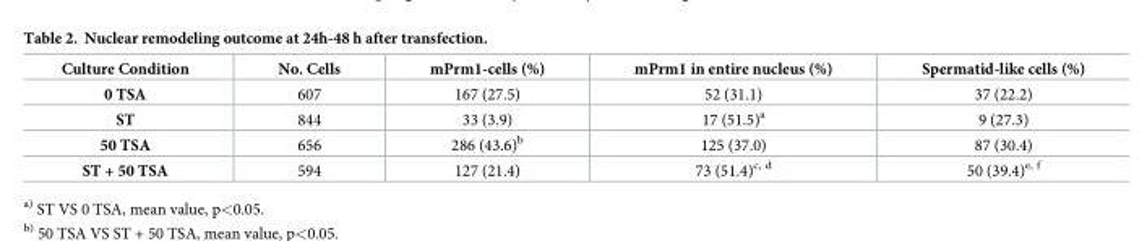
<table><thead><tr><td>Culture Condition</td><td>No. Cells</td><td>mPrm1-cells (%)</td><td>mPrm1 in entire nucleus (%)</td><td>Spermatid-like cells (%)</td></tr></thead><tbody><tr><td>0 TSA</td><td>607</td><td>167 (27.5)</td><td>52 (31.1)</td><td>37 (22.2)</td></tr><tr><td>ST</td><td>844</td><td>33 (3.9)</td><td>17 (51.5)<sup>a</sup></td><td>9 (27.3)</td></tr><tr><td>50 TSA</td><td>656</td><td>286 (43.6)<sup>b</sup></td><td>125 (37.0)</td><td>87 (30.4)</td></tr><tr><td>ST + 50 TSA</td><td>594</td><td>127 (21.4)</td><td>73 (51.4)<sup>c, d</sup></td><td>50 (39.4)<sup>e, f</sup></td></tr></tbody></table>